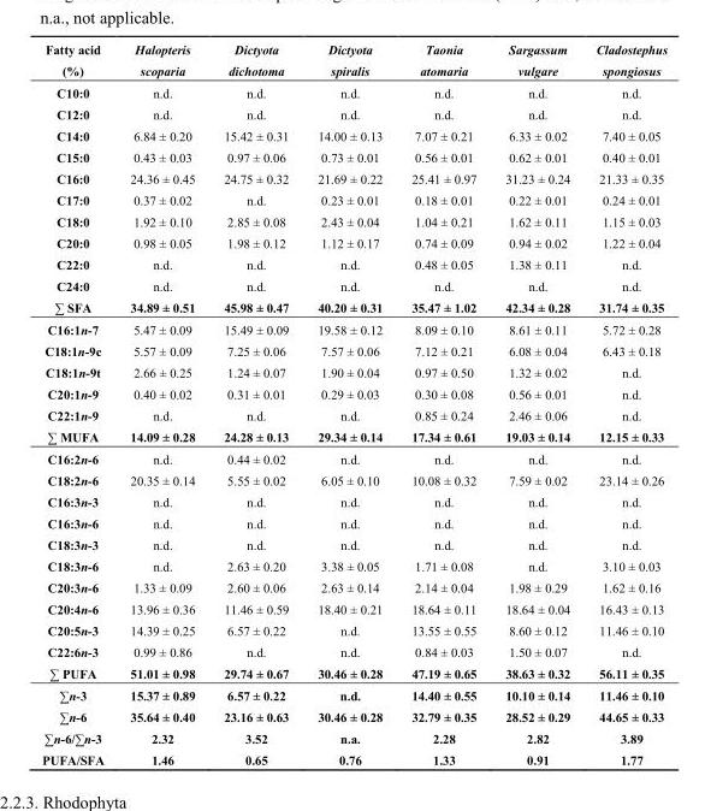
<table><thead><tr><td>Fatty acid (%)</td><td>Halopteris scoparia</td><td>Dictyota dichotoma</td><td>Dictyota spiralis</td><td>Taonia atomaria</td><td>Sargassum vulgare</td><td>Cladostephus spongiosus</td></tr></thead><tbody><tr><td>C10:0</td><td>n.d.</td><td>n.d.</td><td>n.d.</td><td>n.d.</td><td>n.d.</td><td>n.d.</td></tr><tr><td>C12:0</td><td>n.d.</td><td>n.d.</td><td>n.d.</td><td>n.d.</td><td>n.d.</td><td>n.d.</td></tr><tr><td>C14:0</td><td>6.84 ± 0.20</td><td>15.42 ± 0.31</td><td>14.00 ± 0.13</td><td>7.07 ± 0.21</td><td>6.33 ± 0.02</td><td>7.40 ± 0.05</td></tr><tr><td>C15:0</td><td>0.43 ± 0.03</td><td>0.97 ± 0.06</td><td>0.73 ± 0.01</td><td>0.56 ± 0.01</td><td>0.62 ± 0.01</td><td>0.40 ± 0.01</td></tr><tr><td>C16:0</td><td>24.36 ± 0.45</td><td>24.75 ± 0.32</td><td>21.69 ± 0.22</td><td>25.41 ± 0.97</td><td>31.23 ± 0.24</td><td>21.33 ± 0.35</td></tr><tr><td>C17:0</td><td>0.37 ± 0.02</td><td>n.d.</td><td>0.23 ± 0.01</td><td>0.18 ± 0.01</td><td>0.22 ± 0.01</td><td>0.24 ± 0.01</td></tr><tr><td>C18:0</td><td>1.92 ± 0.10</td><td>2.85 ± 0.08</td><td>2.43 ± 0.04</td><td>1.04 ± 0.21</td><td>1.62 ± 0.11</td><td>1.15 ± 0.03</td></tr><tr><td>C20:0</td><td>0.98 ± 0.05</td><td>1.98 ± 0.12</td><td>1.12 ± 0.17</td><td>0.74 ± 0.09</td><td>0.94 ± 0.02</td><td>1.22 ± 0.04</td></tr><tr><td>C22:0</td><td>n.d.</td><td>n.d.</td><td>n.d.</td><td>0.48 ± 0.05</td><td>1.38 ± 0.11</td><td>n.d.</td></tr><tr><td>C24:0</td><td>n.d.</td><td>n.d.</td><td>n.d.</td><td>n.d.</td><td>n.d.</td><td>n.d.</td></tr><tr><td>∑ SFA</td><td>34.89 ± 0.51</td><td>45.98 ± 0.47</td><td>40.20 ± 0.31</td><td>35.47 ± 1.02</td><td>42.34 ± 0.28</td><td>31.74 ± 0.35</td></tr><tr><td>C16:1n-7</td><td>5.47 ± 0.09</td><td>15.49 ± 0.09</td><td>19.58 ± 0.12</td><td>8.09 ± 0.10</td><td>8.61 ± 0.11</td><td>5.72 ± 0.28</td></tr><tr><td>C18:1n-9c</td><td>5.57 ± 0.09</td><td>7.25 ± 0.06</td><td>7.57 ± 0.06</td><td>7.12 ± 0.21</td><td>6.08 ± 0.04</td><td>6.43 ± 0.18</td></tr><tr><td>C18:1n-9t</td><td>2.66 ± 0.25</td><td>1.24 ± 0.07</td><td>1.90 ± 0.04</td><td>0.97 ± 0.50</td><td>1.32 ± 0.02</td><td>n.d.</td></tr><tr><td>C20:1n-9</td><td>0.40 ± 0.02</td><td>0.31 ± 0.01</td><td>0.29 ± 0.03</td><td>0.30 ± 0.08</td><td>0.56 ± 0.01</td><td>n.d.</td></tr><tr><td>C22:1n-9</td><td>n.d.</td><td>n.d.</td><td>n.d.</td><td>0.85 ± 0.24</td><td>2.46 ± 0.06</td><td>n.d.</td></tr><tr><td>∑ MUFA</td><td>14.09 ± 0.28</td><td>24.28 ± 0.13</td><td>29.34 ± 0.14</td><td>17.34 ± 0.61</td><td>19.03 ± 0.14</td><td>12.15 ± 0.33</td></tr><tr><td>C16:2n-6</td><td>n.d.</td><td>0.44 ± 0.02</td><td>n.d.</td><td>n.d.</td><td>n.d.</td><td>n.d.</td></tr><tr><td>C18:2n-6</td><td>20.35 ± 0.14</td><td>5.55 ± 0.02</td><td>6.05 ± 0.10</td><td>10.08 ± 0.32</td><td>7.59 ± 0.02</td><td>23.14 ± 0.26</td></tr><tr><td>C16:3n-3</td><td>n.d.</td><td>n.d.</td><td>n.d.</td><td>n.d.</td><td>n.d.</td><td>n.d.</td></tr><tr><td>C16:3n-6</td><td>n.d.</td><td>n.d.</td><td>n.d.</td><td>n.d.</td><td>n.d.</td><td>n.d.</td></tr><tr><td>C18:3n-3</td><td>n.d.</td><td>n.d.</td><td>n.d.</td><td>n.d.</td><td>n.d.</td><td>n.d.</td></tr><tr><td>C18:3n-6</td><td>n.d.</td><td>2.63 ± 0.20</td><td>3.38 ± 0.05</td><td>1.71 ± 0.08</td><td>n.d.</td><td>3.10 ± 0.03</td></tr><tr><td>C20:3n-6</td><td>1.33 ± 0.09</td><td>2.60 ± 0.06</td><td>2.63 ± 0.14</td><td>2.14 ± 0.04</td><td>1.98 ± 0.29</td><td>1.62 ± 0.16</td></tr><tr><td>C20:4n-6</td><td>13.96 ± 0.36</td><td>11.46 ± 0.59</td><td>18.40 ± 0.21</td><td>18.64 ± 0.11</td><td>18.64 ± 0.04</td><td>16.43 ± 0.13</td></tr><tr><td>C20:5n-3</td><td>14.39 ± 0.25</td><td>6.57 ± 0.22</td><td>n.d.</td><td>13.55 ± 0.55</td><td>8.60 ± 0.12</td><td>11.46 ± 0.10</td></tr><tr><td>C22:6n-3</td><td>0.99 ± 0.86</td><td>n.d.</td><td>n.d.</td><td>0.84 ± 0.03</td><td>1.50 ± 0.07</td><td>n.d.</td></tr><tr><td>∑ PUFA</td><td>51.01 ± 0.98</td><td>29.74 ± 0.67</td><td>30.46 ± 0.28</td><td>47.19 ± 0.65</td><td>38.63 ± 0.32</td><td>56.11 ± 0.35</td></tr><tr><td>∑n-3</td><td>15.37 ± 0.89</td><td>6.57 ± 0.22</td><td>n.d.</td><td>14.40 ± 0.55</td><td>10.10 ± 0.14</td><td>11.46 ± 0.10</td></tr><tr><td>∑n-6</td><td>35.64 ± 0.40</td><td>23.16 ± 0.63</td><td>30.46 ± 0.28</td><td>32.79 ± 0.35</td><td>28.52 ± 0.29</td><td>44.65 ± 0.33</td></tr><tr><td>∑n-6/∑n-3</td><td>2.32</td><td>3.52</td><td>n.a.</td><td>2.28</td><td>2.82</td><td>3.89</td></tr><tr><td>PUFA/SFA</td><td>1.46</td><td>0.65</td><td>0.76</td><td>1.33</td><td>0.91</td><td>1.77</td></tr></tbody></table>